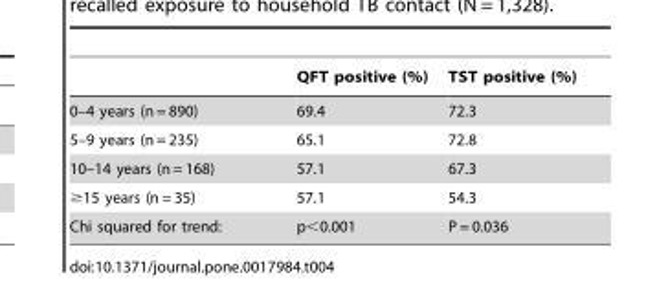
<table><thead><tr><td></td><td>QFT positive (%)</td><td>TST positive (%)</td></tr></thead><tbody><tr><td>0–4 years (n = 890)</td><td>69.4</td><td>72.3</td></tr><tr><td>5–9 years (n = 235)</td><td>65.1</td><td>72.8</td></tr><tr><td>10–14 years (n = 168)</td><td>57.1</td><td>67.3</td></tr><tr><td>≥15 years (n = 35)</td><td>57.1</td><td>54.3</td></tr><tr><td>Chi squared for trend:</td><td>p&lt;0.001</td><td>P = 0.036</td></tr></tbody></table>